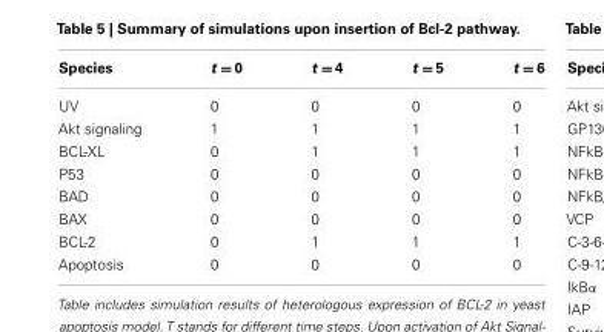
<table><thead><tr><td>Species</td><td>t = 0</td><td>t = 4</td><td>t = 5</td><td>t = 6</td></tr></thead><tbody><tr><td>UV</td><td>0</td><td>0</td><td>0</td><td>0</td></tr><tr><td>Akt signaling</td><td>1</td><td>1</td><td>1</td><td>1</td></tr><tr><td>BCL-XL</td><td>0</td><td>1</td><td>1</td><td>1</td></tr><tr><td>P53</td><td>0</td><td>0</td><td>0</td><td>0</td></tr><tr><td>BAD</td><td>0</td><td>0</td><td>0</td><td>0</td></tr><tr><td>BAX</td><td>0</td><td>0</td><td>0</td><td>0</td></tr><tr><td>BCL-2</td><td>0</td><td>1</td><td>1</td><td>1</td></tr><tr><td>Apoptosis</td><td>0</td><td>0</td><td>0</td><td>0</td></tr></tbody></table>